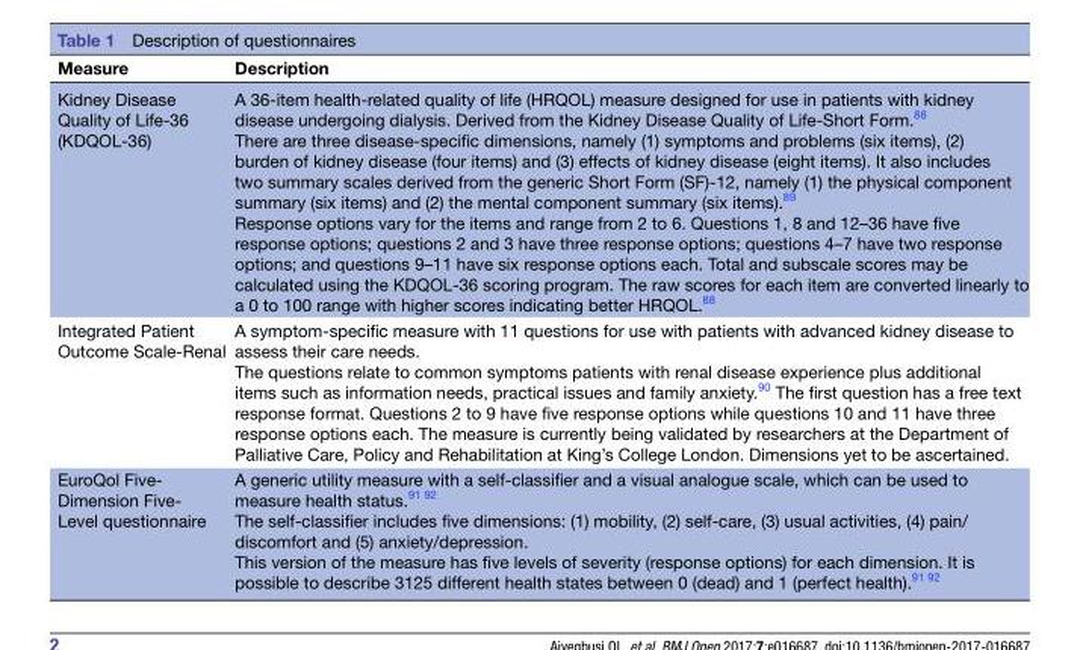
<table><thead><tr><td>Measure</td><td>Description</td></tr></thead><tbody><tr><td>Kidney Disease Quality of Life-36 (KDQOL-36)</td><td>A 36-item health-related quality of life (HRQOL) measure designed for use in patients with kidney disease undergoing dialysis. Derived from the Kidney Disease Quality of Life-Short Form.<sup>88</sup> There are three disease-specific dimensions, namely (1) symptoms and problems (six items), (2) burden of kidney disease (four items) and (3) effects of kidney disease (eight items). It also includes two summary scales derived from the generic Short Form (SF)-12, namely (1) the physical component summary (six items) and (2) the mental component summary (six items).<sup>89</sup> Response options vary for the items and range from 2 to 6. Questions 1, 8 and 12–36 have five response options; questions 2 and 3 have three response options; questions 4–7 have two response options; and questions 9–11 have six response options each. Total and subscale scores may be calculated using the KDQOL-36 scoring program. The raw scores for each item are converted linearly to a 0 to 100 range with higher scores indicating better HRQOL.<sup>88</sup></td></tr><tr><td>Integrated Patient Outcome Scale-Renal</td><td>A symptom-specific measure with 11 questions for use with patients with advanced kidney disease to assess their care needs. The questions relate to common symptoms patients with renal disease experience plus additional items such as information needs, practical issues and family anxiety.<sup>90</sup> The first question has a free text response format. Questions 2 to 9 have five response options while questions 10 and 11 have three response options each. The measure is currently being validated by researchers at the Department of Palliative Care, Policy and Rehabilitation at King’s College London. Dimensions yet to be ascertained.</td></tr><tr><td>EuroQol Five- Dimension Five- Level questionnaire</td><td>A generic utility measure with a self-classifier and a visual analogue scale, which can be used to measure health status.<sup>91 92</sup> The self-classifier includes five dimensions: (1) mobility, (2) self-care, (3) usual activities, (4) pain/ discomfort and (5) anxiety/depression. This version of the measure has five levels of severity (response options) for each dimension. It is possible to describe 3125 different health states between 0 (dead) and 1 (perfect health).<sup>91 92</sup></td></tr></tbody></table>